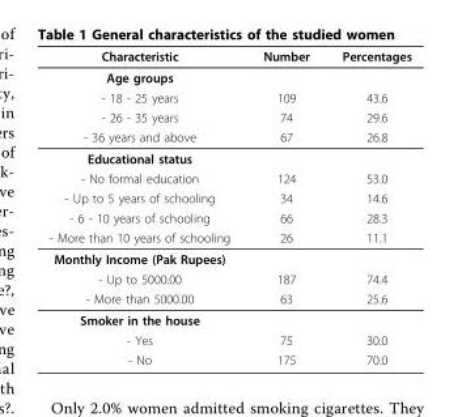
<table><thead><tr><td>Characteristic</td><td>Number</td><td>Percentages</td></tr></thead><tbody><tr><td colspan="3">Age groups</td></tr><tr><td>- 18 - 25 years</td><td>109</td><td>43.6</td></tr><tr><td>- 26 - 35 years</td><td>74</td><td>29.6</td></tr><tr><td>- 36 years and above</td><td>67</td><td>26.8</td></tr><tr><td colspan="3">Educational status</td></tr><tr><td>- No formal education</td><td>124</td><td>53.0</td></tr><tr><td>- Up to 5 years of schooling</td><td>34</td><td>14.6</td></tr><tr><td>- 6 - 10 years of schooling</td><td>66</td><td>28.3</td></tr><tr><td>- More than 10 years of schooling</td><td>26</td><td>11.1</td></tr><tr><td colspan="3">Monthly Income (Pak Rupees)</td></tr><tr><td>- Up to 5000.00</td><td>187</td><td>74.4</td></tr><tr><td>- More than 5000.00</td><td>63</td><td>25.6</td></tr><tr><td colspan="3">Smoker in the house</td></tr><tr><td>- Yes</td><td>75</td><td>30.0</td></tr><tr><td>- No</td><td>175</td><td>70.0</td></tr></tbody></table>